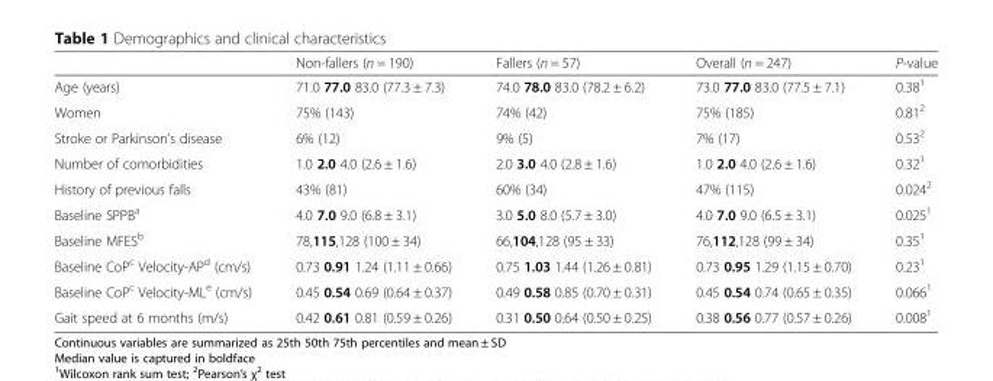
<table><thead><tr><td></td><td>Non-fallers (n = 190)</td><td>Fallers (n = 57)</td><td>Overall (n = 247)</td><td>P-value</td></tr></thead><tbody><tr><td>Age (years)</td><td>71.0 77.0 83.0 (77.3 ± 7.3)</td><td>74.0 78.0 83.0 (78.2 ± 6.2)</td><td>73.0 77.0 83.0 (77.5 ± 7.1)</td><td>0.38<sup>1</sup></td></tr><tr><td>Women</td><td>75% (143)</td><td>74% (42)</td><td>75% (185)</td><td>0.81<sup>2</sup></td></tr><tr><td>Stroke or Parkinson’s disease</td><td>6% (12)</td><td>9% (5)</td><td>7% (17)</td><td>0.53<sup>2</sup></td></tr><tr><td>Number of comorbidities</td><td>1.0 2.0 4.0 (2.6 ± 1.6)</td><td>2.0 3.0 4.0 (2.8 ± 1.6)</td><td>1.0 2.0 4.0 (2.6 ± 1.6)</td><td>0.32<sup>1</sup></td></tr><tr><td>History of previous falls</td><td>43% (81)</td><td>60% (34)</td><td>47% (115)</td><td>0.024<sup>2</sup></td></tr><tr><td>Baseline SPPB<sup>a</sup></td><td>4.0 7.0 9.0 (6.8 ± 3.1)</td><td>3.0 5.0 8.0 (5.7 ± 3.0)</td><td>4.0 7.0 9.0 (6.5 ± 3.1)</td><td>0.025<sup>1</sup></td></tr><tr><td>Baseline MFES<sup>b</sup></td><td>78,115,128 (100 ± 34)</td><td>66,104,128 (95 ± 33)</td><td>76,112,128 (99 ± 34)</td><td>0.35<sup>1</sup></td></tr><tr><td>Baseline CoP<sup>c</sup> Velocity-AP<sup>d</sup> (cm/s)</td><td>0.73 0.91 1.24 (1.11 ± 0.66)</td><td>0.75 1.03 1.44 (1.26 ± 0.81)</td><td>0.73 0.95 1.29 (1.15 ± 0.70)</td><td>0.23<sup>1</sup></td></tr><tr><td>Baseline CoP<sup>c</sup> Velocity-ML<sup>e</sup> (cm/s)</td><td>0.45 0.54 0.69 (0.64 ± 0.37)</td><td>0.49 0.58 0.85 (0.70 ± 0.31)</td><td>0.45 0.54 0.74 (0.65 ± 0.35)</td><td>0.066<sup>1</sup></td></tr><tr><td>Gait speed at 6 months (m/s)</td><td>0.42 0.61 0.81 (0.59 ± 0.26)</td><td>0.31 0.50 0.64 (0.50 ± 0.25)</td><td>0.38 0.56 0.77 (0.57 ± 0.26)</td><td>0.008<sup>1</sup></td></tr></tbody></table>